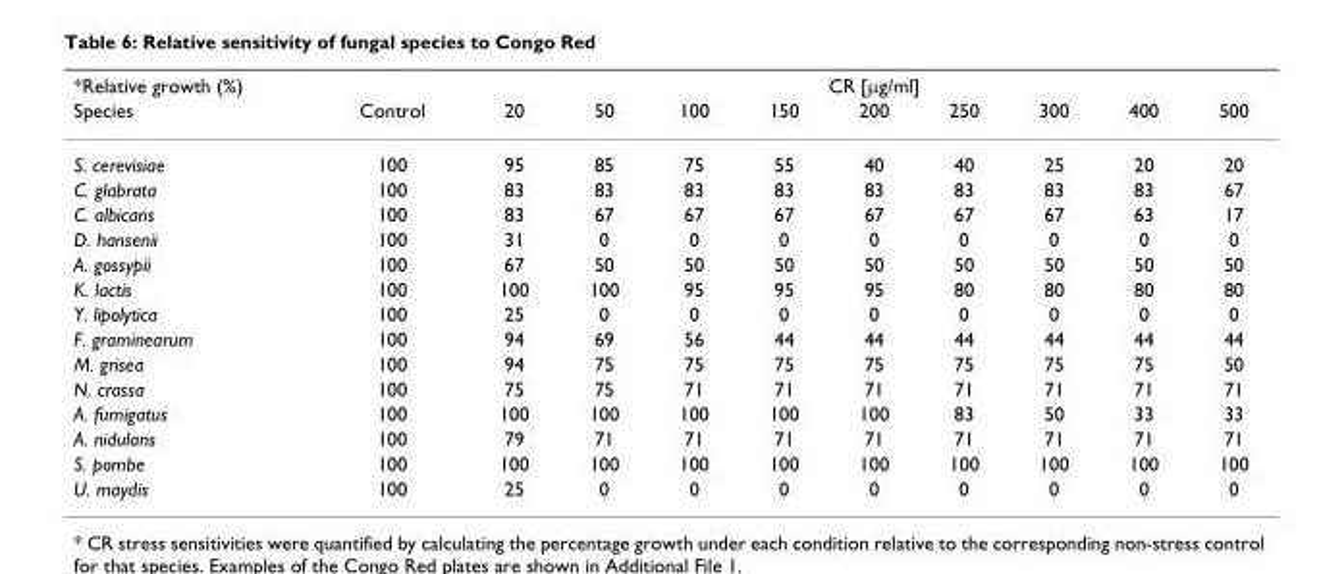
<table><thead><tr><td colspan="2">*Relative growth (%)</td><td colspan="9">CR [μg/ml]</td></tr><tr><td>Species</td><td>Control</td><td>20</td><td>50</td><td>100</td><td>150</td><td>200</td><td>250</td><td>300</td><td>400</td><td>500</td></tr></thead><tbody><tr><td>S. cerevisiae</td><td>100</td><td>95</td><td>85</td><td>75</td><td>55</td><td>40</td><td>40</td><td>25</td><td>20</td><td>20</td></tr><tr><td>C. glabrata</td><td>100</td><td>83</td><td>83</td><td>83</td><td>83</td><td>83</td><td>83</td><td>83</td><td>83</td><td>67</td></tr><tr><td>C. albicans</td><td>100</td><td>83</td><td>67</td><td>67</td><td>67</td><td>67</td><td>67</td><td>67</td><td>63</td><td>17</td></tr><tr><td>D. hansenii</td><td>100</td><td>31</td><td>0</td><td>0</td><td>0</td><td>0</td><td>0</td><td>0</td><td>0</td><td>0</td></tr><tr><td>A. gossypii</td><td>100</td><td>67</td><td>50</td><td>50</td><td>50</td><td>50</td><td>50</td><td>50</td><td>50</td><td>50</td></tr><tr><td>K. lactis</td><td>100</td><td>100</td><td>100</td><td>95</td><td>95</td><td>95</td><td>80</td><td>80</td><td>80</td><td>80</td></tr><tr><td>Y. lipolytica</td><td>100</td><td>25</td><td>0</td><td>0</td><td>0</td><td>0</td><td>0</td><td>0</td><td>0</td><td>0</td></tr><tr><td>F. graminearum</td><td>100</td><td>94</td><td>69</td><td>56</td><td>44</td><td>44</td><td>44</td><td>44</td><td>44</td><td>44</td></tr><tr><td>M. grisea</td><td>100</td><td>94</td><td>75</td><td>75</td><td>75</td><td>75</td><td>75</td><td>75</td><td>75</td><td>50</td></tr><tr><td>N. crassa</td><td>100</td><td>75</td><td>75</td><td>71</td><td>71</td><td>71</td><td>71</td><td>71</td><td>71</td><td>71</td></tr><tr><td>A. fumigatus</td><td>100</td><td>100</td><td>100</td><td>100</td><td>100</td><td>100</td><td>83</td><td>50</td><td>33</td><td>33</td></tr><tr><td>A. nidulans</td><td>100</td><td>79</td><td>71</td><td>71</td><td>71</td><td>71</td><td>71</td><td>71</td><td>71</td><td>71</td></tr><tr><td>S. pombe</td><td>100</td><td>100</td><td>100</td><td>100</td><td>100</td><td>100</td><td>100</td><td>100</td><td>100</td><td>100</td></tr><tr><td>U. maydis</td><td>100</td><td>25</td><td>0</td><td>0</td><td>0</td><td>0</td><td>0</td><td>0</td><td>0</td><td>0</td></tr></tbody></table>